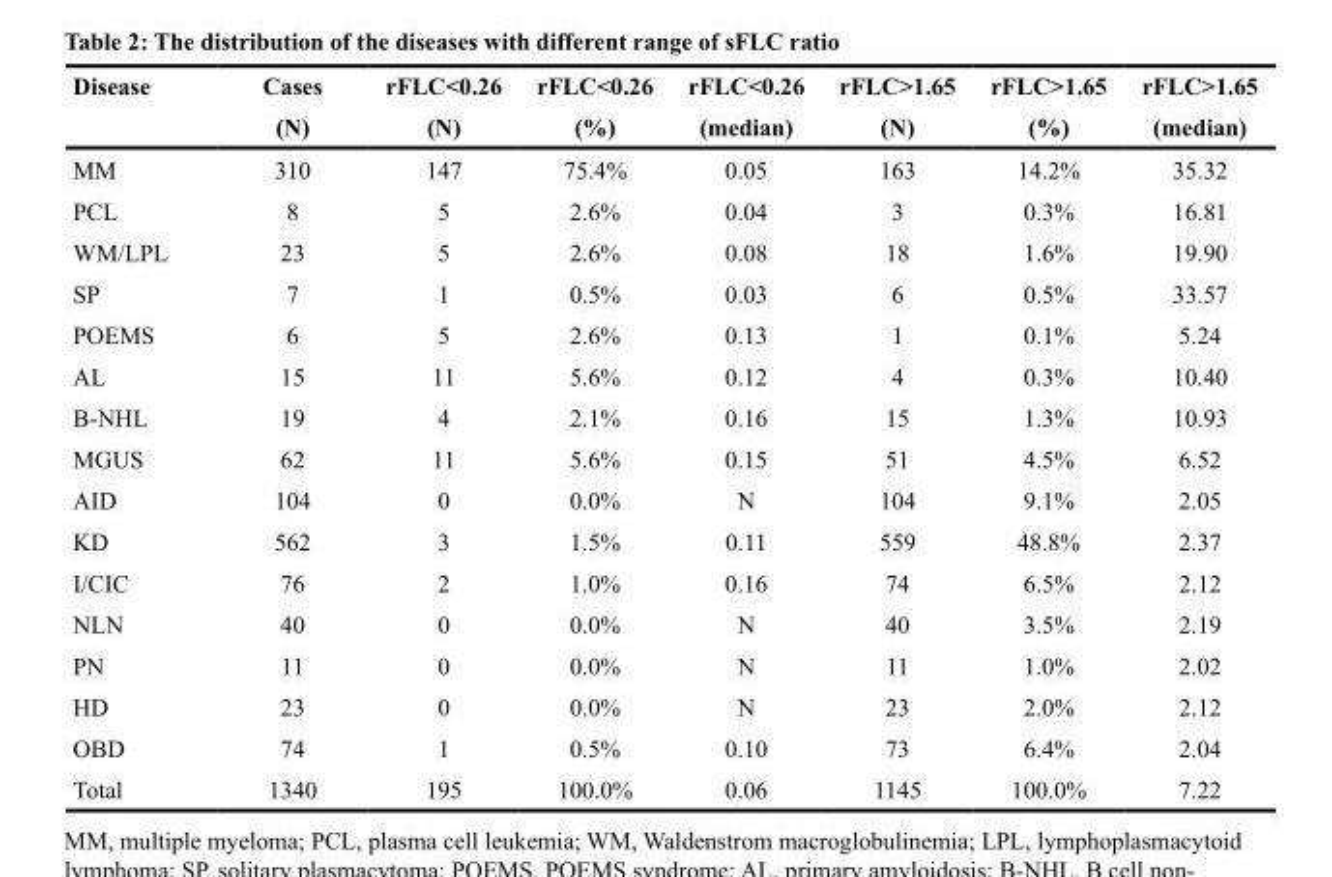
<table><thead><tr><td rowspan="2">Disease</td><td rowspan="2">Cases (N)</td><td rowspan="2">rFLC&lt;0.26 (N)</td><td rowspan="2">rFLC&lt;0.26 (%)</td><td rowspan="2">rFLC&lt;0.26 (median)</td><td rowspan="2">rFLC&gt;1.65 (N)</td><td rowspan="2">rFLC&gt;1.65 (%)</td><td rowspan="2">rFLC&gt;1.65 (median)</td></tr><tr></tr></thead><tbody><tr><td>MM</td><td>310</td><td>147</td><td>75.4%</td><td>0.05</td><td>163</td><td>14.2%</td><td>35.32</td></tr><tr><td>PCL</td><td>8</td><td>5</td><td>2.6%</td><td>0.04</td><td>3</td><td>0.3%</td><td>16.81</td></tr><tr><td>WM/LPL</td><td>23</td><td>5</td><td>2.6%</td><td>0.08</td><td>18</td><td>1.6%</td><td>19.90</td></tr><tr><td>SP</td><td>7</td><td>1</td><td>0.5%</td><td>0.03</td><td>6</td><td>0.5%</td><td>33.57</td></tr><tr><td>POEMS</td><td>6</td><td>5</td><td>2.6%</td><td>0.13</td><td>1</td><td>0.1%</td><td>5.24</td></tr><tr><td>AL</td><td>15</td><td>11</td><td>5.6%</td><td>0.12</td><td>4</td><td>0.3%</td><td>10.40</td></tr><tr><td>B-NHL</td><td>19</td><td>4</td><td>2.1%</td><td>0.16</td><td>15</td><td>1.3%</td><td>10.93</td></tr><tr><td>MGUS</td><td>62</td><td>11</td><td>5.6%</td><td>0.15</td><td>51</td><td>4.5%</td><td>6.52</td></tr><tr><td>AID</td><td>104</td><td>0</td><td>0.0%</td><td>N</td><td>104</td><td>9.1%</td><td>2.05</td></tr><tr><td>KD</td><td>562</td><td>3</td><td>1.5%</td><td>0.11</td><td>559</td><td>48.8%</td><td>2.37</td></tr><tr><td>I/CIC</td><td>76</td><td>2</td><td>1.0%</td><td>0.16</td><td>74</td><td>6.5%</td><td>2.12</td></tr><tr><td>NLN</td><td>40</td><td>0</td><td>0.0%</td><td>N</td><td>40</td><td>3.5%</td><td>2.19</td></tr><tr><td>PN</td><td>11</td><td>0</td><td>0.0%</td><td>N</td><td>11</td><td>1.0%</td><td>2.02</td></tr><tr><td>HD</td><td>23</td><td>0</td><td>0.0%</td><td>N</td><td>23</td><td>2.0%</td><td>2.12</td></tr><tr><td>OBD</td><td>74</td><td>1</td><td>0.5%</td><td>0.10</td><td>73</td><td>6.4%</td><td>2.04</td></tr><tr><td>Total</td><td>1340</td><td>195</td><td>100.0%</td><td>0.06</td><td>1145</td><td>100.0%</td><td>7.22</td></tr></tbody></table>